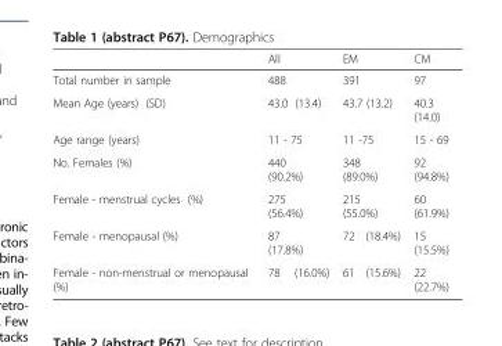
<table><thead><tr><td></td><td>All</td><td>EM</td><td>CM</td></tr></thead><tbody><tr><td>Total number in sample</td><td>488</td><td>391</td><td>97</td></tr><tr><td>Mean Age (years) (SD)</td><td>43.0 (13.4)</td><td>43.7 (13.2)</td><td>40.3 (14.0)</td></tr><tr><td>Age range (years)</td><td>11 - 75</td><td>11 -75</td><td>15 - 69</td></tr><tr><td>No. Females (%)</td><td>440 (90.2%)</td><td>348 (89.0%)</td><td>92 (94.8%)</td></tr><tr><td>Female - menstrual cycles (%)</td><td>275 (56.4%)</td><td>215 (55.0%)</td><td>60 (61.9%)</td></tr><tr><td>Female - menopausal (%)</td><td>87 (17.8%)</td><td>72 (18.4%)</td><td>15 (15.5%)</td></tr><tr><td>Female - non-menstrual or menopausal (%)</td><td>78 (16.0%)</td><td>61 (15.6%)</td><td>22 (22.7%)</td></tr></tbody></table>